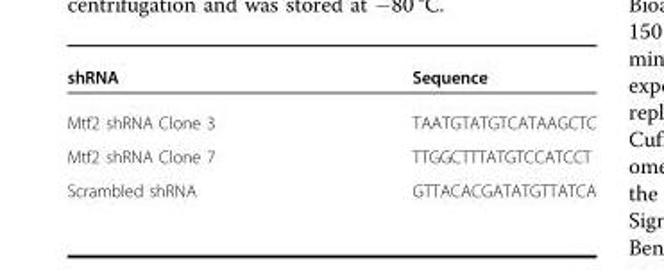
<table><thead><tr><td>shRNA</td><td>Sequence</td></tr></thead><tbody><tr><td>Mtf2 shRNA Clone 3</td><td>TAATGTATGTCATAAGCTC</td></tr><tr><td>Mtf2 shRNA Clone 7</td><td>TTGGCTTTATGTCCATCCT</td></tr><tr><td>Scrambled shRNA</td><td>GTTACACGATATGTTATCA</td></tr></tbody></table>